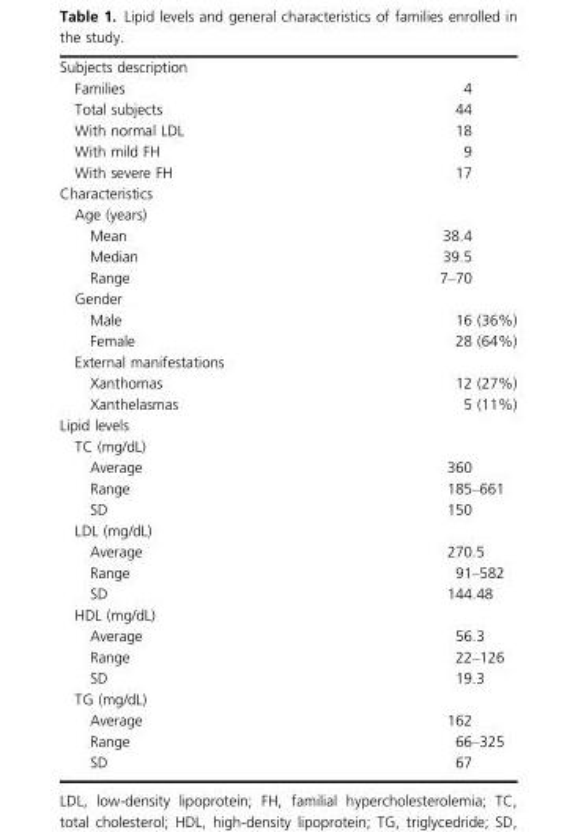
<table><tbody><tr><td colspan="2">Subjects description</td></tr><tr><td>Families</td><td>4</td></tr><tr><td>Total subjects</td><td>44</td></tr><tr><td>With normal LDL</td><td>18</td></tr><tr><td>With mild FH</td><td>9</td></tr><tr><td>With severe FH</td><td>17</td></tr><tr><td colspan="2">Characteristics</td></tr><tr><td colspan="2">Age (years)</td></tr><tr><td>Mean</td><td>38.4</td></tr><tr><td>Median</td><td>39.5</td></tr><tr><td>Range</td><td>7–70</td></tr><tr><td colspan="2">Gender</td></tr><tr><td>Male</td><td>16 (36%)</td></tr><tr><td>Female</td><td>28 (64%)</td></tr><tr><td colspan="2">External manifestations</td></tr><tr><td>Xanthomas</td><td>12 (27%)</td></tr><tr><td>Xanthelasmas</td><td>5 (11%)</td></tr><tr><td colspan="2">Lipid levels</td></tr><tr><td colspan="2">TC (mg/dL)</td></tr><tr><td>Average</td><td>360</td></tr><tr><td>Range</td><td>185–661</td></tr><tr><td>SD</td><td>150</td></tr><tr><td colspan="2">LDL (mg/dL)</td></tr><tr><td>Average</td><td>270.5</td></tr><tr><td>Range</td><td>91–582</td></tr><tr><td>SD</td><td>144.48</td></tr><tr><td colspan="2">HDL (mg/dL)</td></tr><tr><td>Average</td><td>56.3</td></tr><tr><td>Range</td><td>22–126</td></tr><tr><td>SD</td><td>19.3</td></tr><tr><td colspan="2">TG (mg/dL)</td></tr><tr><td>Average</td><td>162</td></tr><tr><td>Range</td><td>66–325</td></tr><tr><td>SD</td><td>67</td></tr></tbody></table>